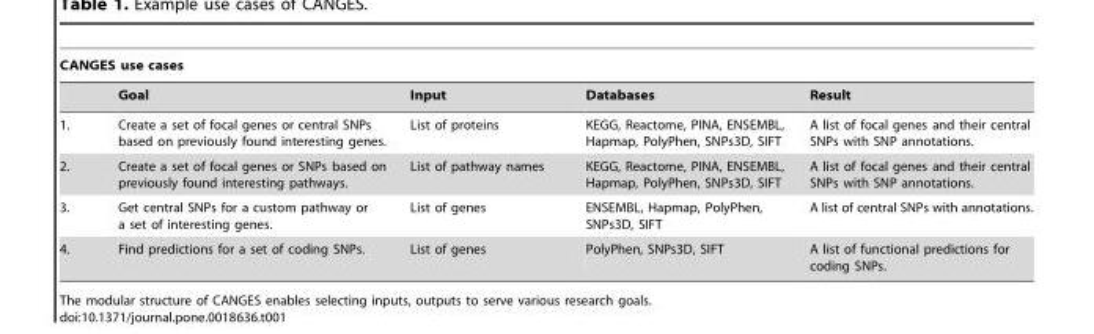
<table><thead><tr><td colspan="5">CANGES use cases</td></tr><tr><td></td><td>Goal</td><td>Input</td><td>Databases</td><td>Result</td></tr></thead><tbody><tr><td>1.</td><td>Create a set of focal genes or central SNPs based on previously found interesting genes.</td><td>List of proteins</td><td>KEGG, Reactome, PINA, ENSEMBL, Hapmap, PolyPhen, SNPs3D, SIFT</td><td>A list of focal genes and their central SNPs with SNP annotations.</td></tr><tr><td>2.</td><td>Create a set of focal genes or SNPs based on previously found interesting pathways.</td><td>List of pathway names</td><td>KEGG, Reactome, PINA, ENSEMBL, Hapmap, PolyPhen, SNPs3D, SIFT</td><td>A list of focal genes and their central SNPs with SNP annotations.</td></tr><tr><td>3.</td><td>Get central SNPs for a custom pathway or a set of interesting genes.</td><td>List of genes</td><td>ENSEMBL, Hapmap, PolyPhen, SNPs3D, SIFT</td><td>A list of central SNPs with annotations.</td></tr><tr><td>4.</td><td>Find predictions for a set of coding SNPs.</td><td>List of genes</td><td>PolyPhen, SNPs3D, SIFT</td><td>A list of functional predictions for coding SNPs.</td></tr></tbody></table>